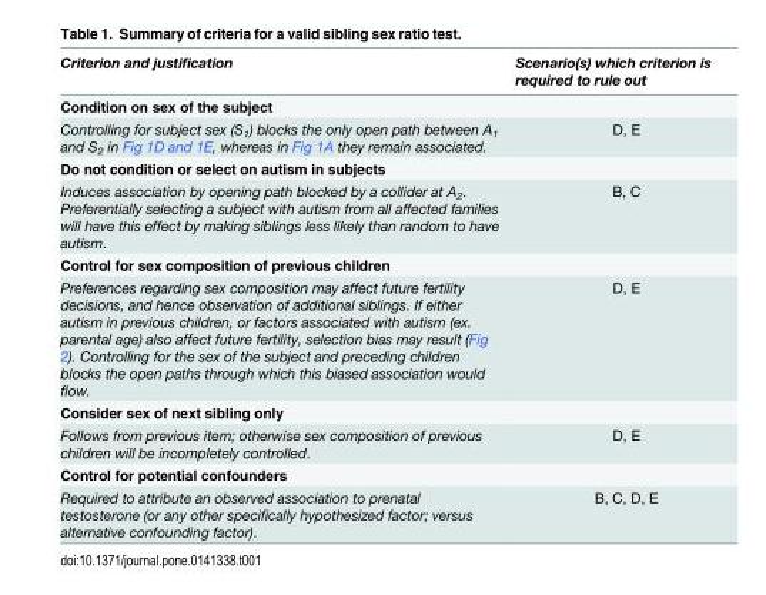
<table><thead><tr><td>Criterion and justification</td><td>Scenario(s) which criterion is required to rule out</td></tr></thead><tbody><tr><td colspan="2">Condition on sex of the subject</td></tr><tr><td>Controlling for subject sex (S<sub>1</sub>) blocks the only open path between A<sub>1</sub> and S<sub>2</sub> in Fig 1D and 1E, whereas in Fig 1A they remain associated.</td><td>D, E</td></tr><tr><td colspan="2">Do not condition or select on autism in subjects</td></tr><tr><td>Induces association by opening path blocked by a collider at A<sub>2</sub>. Preferentially selecting a subject with autism from all affected families will have this effect by making siblings less likely than random to have autism.</td><td>B, C</td></tr><tr><td colspan="2">Control for sex composition of previous children</td></tr><tr><td>Preferences regarding sex composition may affect future fertility decisions, and hence observation of additional siblings. If either autism in previous children, or factors associated with autism (ex. parental age) also affect future fertility, selection bias may result (Fig 2). Controlling for the sex of the subject and preceding children blocks the open paths through which this biased association would flow.</td><td>D, E</td></tr><tr><td colspan="2">Consider sex of next sibling only</td></tr><tr><td>Follows from previous item; otherwise sex composition of previous children will be incompletely controlled.</td><td>D, E</td></tr><tr><td colspan="2">Control for potential confounders</td></tr><tr><td>Required to attribute an observed association to prenatal testosterone (or any other specifically hypothesized factor; versus alternative confounding factor).</td><td>B, C, D, E</td></tr></tbody></table>